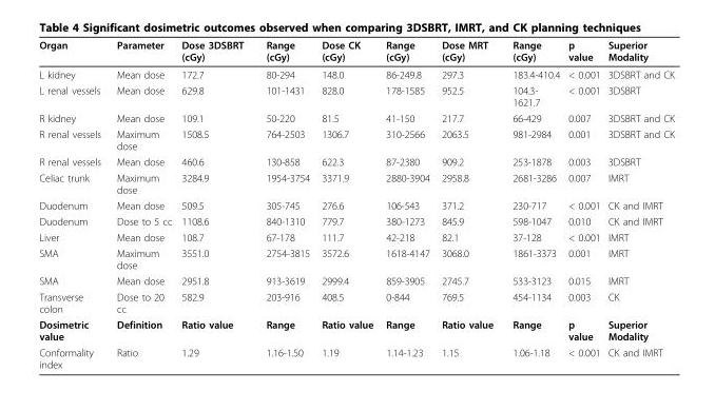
<table><thead><tr><td>Organ</td><td>Parameter</td><td>Dose 3DSBRT (cGy)</td><td>Range (cGy)</td><td>Dose CK (cGy)</td><td>Range (cGy)</td><td>Dose MRT (cGy)</td><td>Range (cGy)</td><td>p value</td><td>Superior Modality</td></tr></thead><tbody><tr><td>L kidney</td><td>Mean dose</td><td>172.7</td><td>80-294</td><td>148.0</td><td>86-249.8</td><td>297.3</td><td>183.4-410.4</td><td>&lt; 0.001</td><td>3DSBRT and CK</td></tr><tr><td>L renal vessels</td><td>Mean dose</td><td>629.8</td><td>101-1431</td><td>828.0</td><td>178-1585</td><td>952.5</td><td>104.3- 1621.7</td><td>&lt; 0.001</td><td>3DSBRT</td></tr><tr><td>R kidney</td><td>Mean dose</td><td>109.1</td><td>50-220</td><td>81.5</td><td>41-150</td><td>217.7</td><td>66-429</td><td>0.007</td><td>3DSBRT and CK</td></tr><tr><td>R renal vessels</td><td>Maximum dose</td><td>1508.5</td><td>764-2503</td><td>1306.7</td><td>310-2566</td><td>2063.5</td><td>981-2984</td><td>0.001</td><td>3DSBRT and CK</td></tr><tr><td>R renal vessels</td><td>Mean dose</td><td>460.6</td><td>130-858</td><td>622.3</td><td>87-2380</td><td>909.2</td><td>253-1878</td><td>0.003</td><td>3DSBRT</td></tr><tr><td>Celiac trunk</td><td>Maximum dose</td><td>3284.9</td><td>1954-3754</td><td>3371.9</td><td>2880-3904</td><td>2958.8</td><td>2681-3286</td><td>0.007</td><td>IMRT</td></tr><tr><td>Duodenum</td><td>Mean dose</td><td>509.5</td><td>305-745</td><td>276.6</td><td>106-543</td><td>371.2</td><td>230-717</td><td>&lt; 0.001</td><td>CK and IMRT</td></tr><tr><td>Duodenum</td><td>Dose to 5 cc</td><td>1108.6</td><td>840-1310</td><td>779.7</td><td>380-1273</td><td>845.9</td><td>598-1047</td><td>0.010</td><td>CK and IMRT</td></tr><tr><td>Liver</td><td>Mean dose</td><td>108.7</td><td>67-178</td><td>111.7</td><td>42-218</td><td>82.1</td><td>37-128</td><td>&lt; 0.001</td><td>IMRT</td></tr><tr><td>SMA</td><td>Maximum dose</td><td>3551.0</td><td>2754-3815</td><td>3572.6</td><td>1618-4147</td><td>3068.0</td><td>1861-3373</td><td>0.001</td><td>IMRT</td></tr><tr><td>SMA</td><td>Mean dose</td><td>2951.8</td><td>913-3619</td><td>2999.4</td><td>859-3905</td><td>2745.7</td><td>533-3123</td><td>0.015</td><td>IMRT</td></tr><tr><td>Transverse colon</td><td>Dose to 20 cc</td><td>582.9</td><td>203-916</td><td>408.5</td><td>0-844</td><td>769.5</td><td>454-1134</td><td>0.003</td><td>CK</td></tr><tr><td>Dosimetric value</td><td>Definition</td><td>Ratio value</td><td>Range</td><td>Ratio value</td><td>Range</td><td>Ratio value</td><td>Range</td><td>p value</td><td>Superior Modality</td></tr><tr><td>Conformality index</td><td>Ratio</td><td>1.29</td><td>1.16-1.50</td><td>1.19</td><td>1.14-1.23</td><td>1.15</td><td>1.06-1.18</td><td>&lt; 0.001</td><td>CK and IMRT</td></tr></tbody></table>